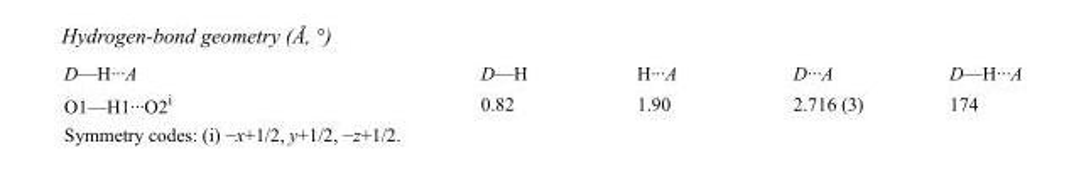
<table><tbody><tr><td>D—H···A</td><td>D—H</td><td>H···A</td><td>D···A</td><td>D—H···A</td></tr><tr><td>O1—H1···O2<sup>i</sup></td><td>0.82</td><td>1.90</td><td>2.716 (3)</td><td>174</td></tr></tbody></table>